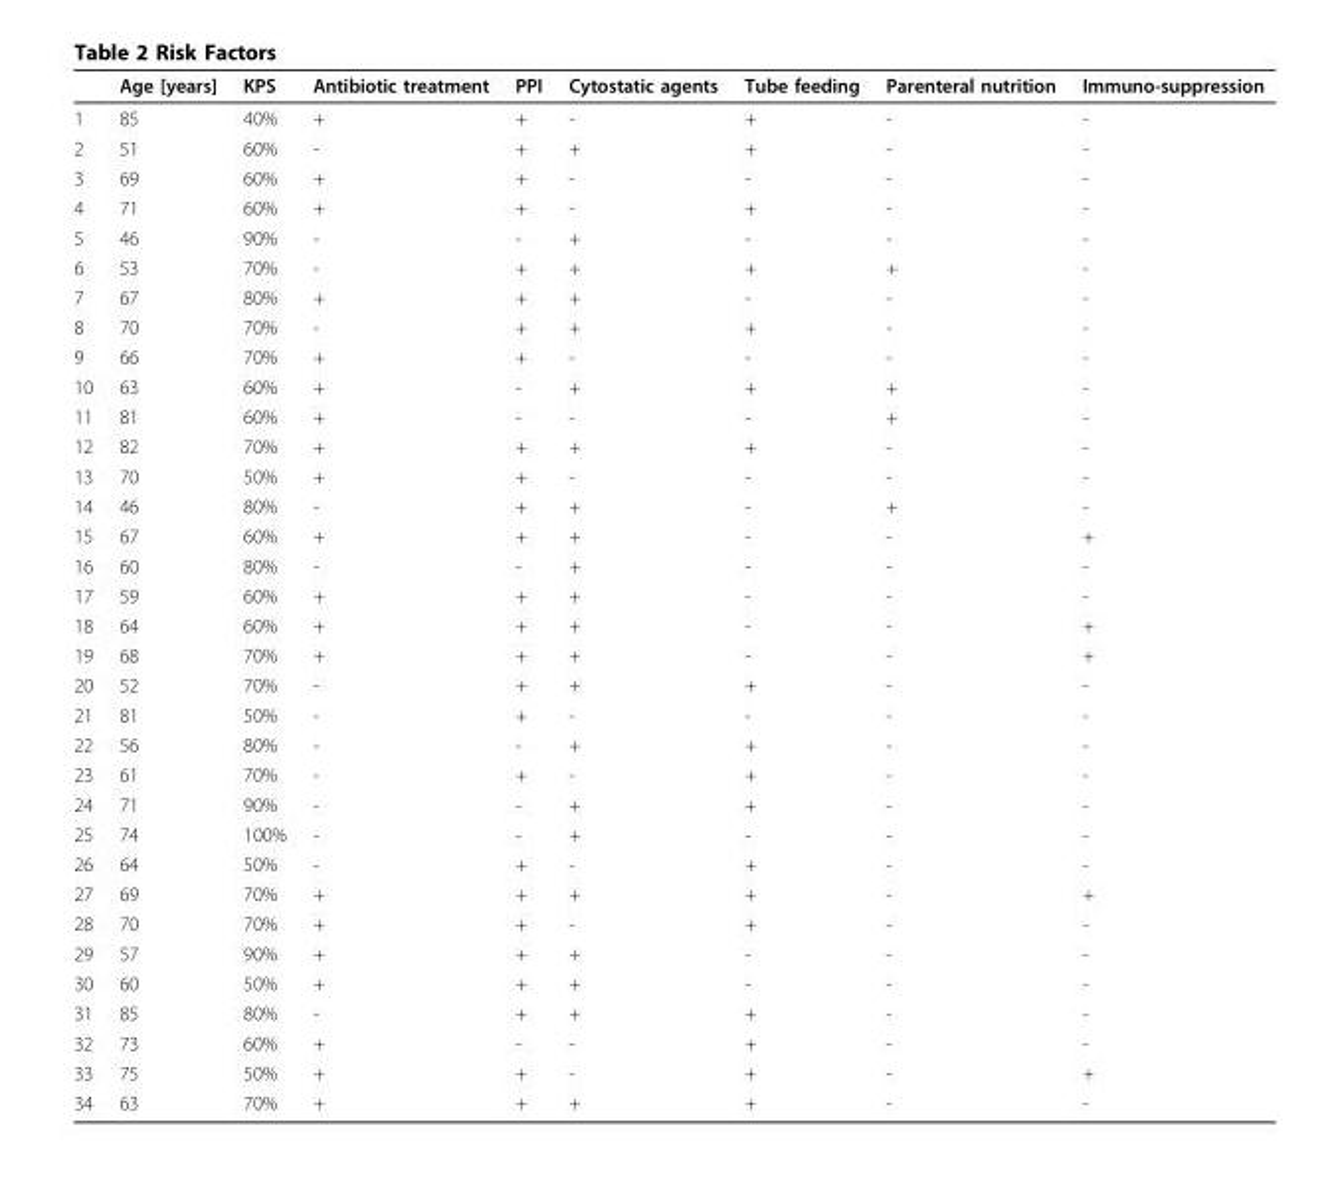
<table><thead><tr><td></td><td>Age [years]</td><td>KPS</td><td>Antibiotic treatment</td><td>PPI</td><td>Cytostatic agents</td><td>Tube feeding</td><td>Parenteral nutrition</td><td>Immuno-suppression</td></tr></thead><tbody><tr><td>1</td><td>85</td><td>40%</td><td>+</td><td>+</td><td>-</td><td>+</td><td>-</td><td>-</td></tr><tr><td>2</td><td>51</td><td>60%</td><td>-</td><td>+</td><td>+</td><td>+</td><td>-</td><td>-</td></tr><tr><td>3</td><td>69</td><td>60%</td><td>+</td><td>+</td><td>-</td><td>-</td><td>-</td><td>-</td></tr><tr><td>4</td><td>71</td><td>60%</td><td>+</td><td>+</td><td>-</td><td>+</td><td>-</td><td>-</td></tr><tr><td>5</td><td>46</td><td>90%</td><td>-</td><td>-</td><td>+</td><td>-</td><td>-</td><td>-</td></tr><tr><td>6</td><td>53</td><td>70%</td><td>-</td><td>+</td><td>+</td><td>+</td><td>+</td><td>-</td></tr><tr><td>7</td><td>67</td><td>80%</td><td>+</td><td>+</td><td>+</td><td>-</td><td>-</td><td>-</td></tr><tr><td>8</td><td>70</td><td>70%</td><td>-</td><td>+</td><td>+</td><td>+</td><td>-</td><td>-</td></tr><tr><td>9</td><td>66</td><td>70%</td><td>+</td><td>+</td><td>-</td><td>-</td><td>-</td><td>-</td></tr><tr><td>10</td><td>63</td><td>60%</td><td>+</td><td>-</td><td>+</td><td>+</td><td>+</td><td>-</td></tr><tr><td>11</td><td>81</td><td>60%</td><td>+</td><td>-</td><td>-</td><td>-</td><td>+</td><td>-</td></tr><tr><td>12</td><td>82</td><td>70%</td><td>+</td><td>+</td><td>+</td><td>+</td><td>-</td><td>-</td></tr><tr><td>13</td><td>70</td><td>50%</td><td>+</td><td>+</td><td>-</td><td>-</td><td>-</td><td>-</td></tr><tr><td>14</td><td>46</td><td>80%</td><td>-</td><td>+</td><td>+</td><td>-</td><td>+</td><td>-</td></tr><tr><td>15</td><td>67</td><td>60%</td><td>+</td><td>+</td><td>+</td><td>-</td><td>-</td><td>+</td></tr><tr><td>16</td><td>60</td><td>80%</td><td>-</td><td>-</td><td>+</td><td>-</td><td>-</td><td>-</td></tr><tr><td>17</td><td>59</td><td>60%</td><td>+</td><td>+</td><td>+</td><td>-</td><td>-</td><td>-</td></tr><tr><td>18</td><td>64</td><td>60%</td><td>+</td><td>+</td><td>+</td><td>-</td><td>-</td><td>+</td></tr><tr><td>19</td><td>68</td><td>70%</td><td>+</td><td>+</td><td>+</td><td>-</td><td>-</td><td>+</td></tr><tr><td>20</td><td>52</td><td>70%</td><td>-</td><td>+</td><td>+</td><td>+</td><td>-</td><td>-</td></tr><tr><td>21</td><td>81</td><td>50%</td><td>-</td><td>+</td><td>-</td><td>-</td><td>-</td><td>-</td></tr><tr><td>22</td><td>56</td><td>80%</td><td>-</td><td>-</td><td>+</td><td>+</td><td>-</td><td>-</td></tr><tr><td>23</td><td>61</td><td>70%</td><td>-</td><td>+</td><td>-</td><td>+</td><td>-</td><td>-</td></tr><tr><td>24</td><td>71</td><td>90%</td><td>-</td><td>-</td><td>+</td><td>+</td><td>-</td><td>-</td></tr><tr><td>25</td><td>74</td><td>100%</td><td>-</td><td>-</td><td>+</td><td>-</td><td>-</td><td>-</td></tr><tr><td>26</td><td>64</td><td>50%</td><td>-</td><td>+</td><td>-</td><td>+</td><td>-</td><td>-</td></tr><tr><td>27</td><td>69</td><td>70%</td><td>+</td><td>+</td><td>+</td><td>+</td><td>-</td><td>+</td></tr><tr><td>28</td><td>70</td><td>70%</td><td>+</td><td>+</td><td>-</td><td>+</td><td>-</td><td>-</td></tr><tr><td>29</td><td>57</td><td>90%</td><td>+</td><td>+</td><td>+</td><td>-</td><td>-</td><td>-</td></tr><tr><td>30</td><td>60</td><td>50%</td><td>+</td><td>+</td><td>+</td><td>-</td><td>-</td><td>-</td></tr><tr><td>31</td><td>85</td><td>80%</td><td>-</td><td>+</td><td>+</td><td>+</td><td>-</td><td>-</td></tr><tr><td>32</td><td>73</td><td>60%</td><td>+</td><td>-</td><td>-</td><td>+</td><td>-</td><td>-</td></tr><tr><td>33</td><td>75</td><td>50%</td><td>+</td><td>+</td><td>-</td><td>+</td><td>-</td><td>+</td></tr><tr><td>34</td><td>63</td><td>70%</td><td>+</td><td>+</td><td>+</td><td>+</td><td>-</td><td>-</td></tr></tbody></table>